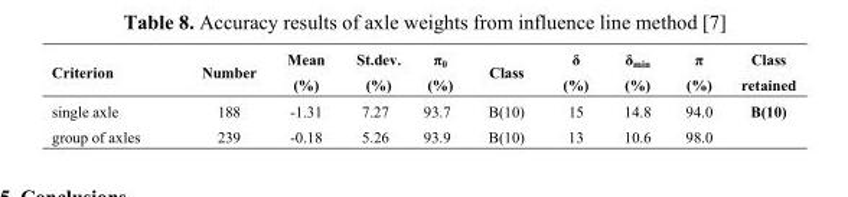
<table><thead><tr><td>Criterion</td><td>Number</td><td>Mean (%)</td><td>St.dev. (%)</td><td>π<sub>0</sub> (%)</td><td>Class</td><td>δ (%)</td><td>δ<sub>min</sub> (%)</td><td>π (%)</td><td>Class retained</td></tr></thead><tbody><tr><td>single axle</td><td>188</td><td>-1.31</td><td>7.27</td><td>93.7</td><td>B(10)</td><td>15</td><td>14.8</td><td>94.0</td><td>B(10)</td></tr><tr><td>group of axles</td><td>239</td><td>-0.18</td><td>5.26</td><td>93.9</td><td>B(10)</td><td>13</td><td>10.6</td><td>98.0</td><td></td></tr></tbody></table>